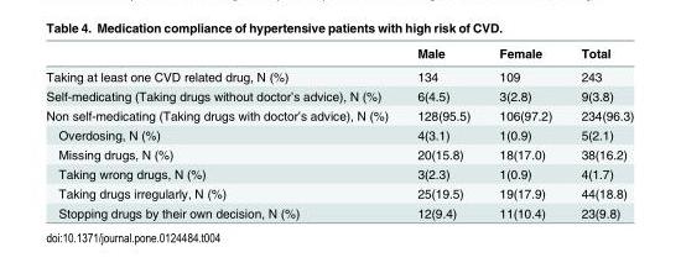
<table><thead><tr><td></td><td>Male</td><td>Female</td><td>Total</td></tr></thead><tbody><tr><td>Taking at least one CVD related drug, N (%)</td><td>134</td><td>109</td><td>243</td></tr><tr><td>Self-medicating (Taking drugs without doctor’s advice), N (%)</td><td>6(4.5)</td><td>3(2.8)</td><td>9(3.8)</td></tr><tr><td>Non self-medicating (Taking drugs with doctor’s advice), N (%)</td><td>128(95.5)</td><td>106(97.2)</td><td>234(96.3)</td></tr><tr><td>Overdosing, N (%)</td><td>4(3.1)</td><td>1(0.9)</td><td>5(2.1)</td></tr><tr><td>Missing drugs, N (%)</td><td>20(15.8)</td><td>18(17.0)</td><td>38(16.2)</td></tr><tr><td>Taking wrong drugs, N (%)</td><td>3(2.3)</td><td>1(0.9)</td><td>4(1.7)</td></tr><tr><td>Taking drugs irregularly, N (%)</td><td>25(19.5)</td><td>19(17.9)</td><td>44(18.8)</td></tr><tr><td>Stopping drugs by their own decision, N (%)</td><td>12(9.4)</td><td>11(10.4)</td><td>23(9.8)</td></tr></tbody></table>